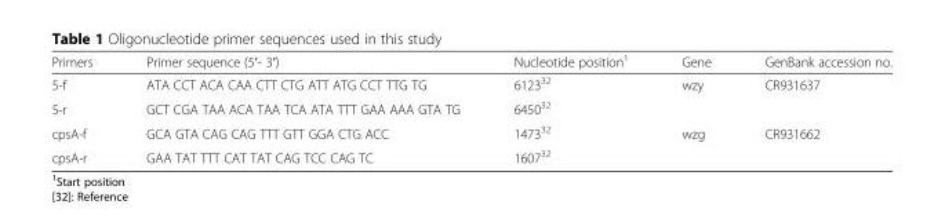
<table><thead><tr><td>Primers</td><td>Primer sequence (5′- 3′)</td><td>Nucleotide position<sup>1</sup></td><td>Gene</td><td>GenBank accession no.</td></tr></thead><tbody><tr><td>5-f</td><td>ATA CCT ACA CAA CTT CTG ATT ATG CCT TTG TG</td><td>6123<sup>32</sup></td><td rowspan="2">wzy</td><td rowspan="2">CR931637</td></tr><tr><td>5-r</td><td>GCT CGA TAA ACA TAA TCA ATA TTT GAA AAA GTA TG</td><td>6450<sup>32</sup></td></tr><tr><td>cpsA-f</td><td>GCA GTA CAG CAG TTT GTT GGA CTG ACC</td><td>1473<sup>32</sup></td><td rowspan="2">wzg</td><td rowspan="2">CR931662</td></tr><tr><td>cpsA-r</td><td>GAA TAT TTT CAT TAT CAG TCC CAG TC</td><td>1607<sup>32</sup></td></tr></tbody></table>